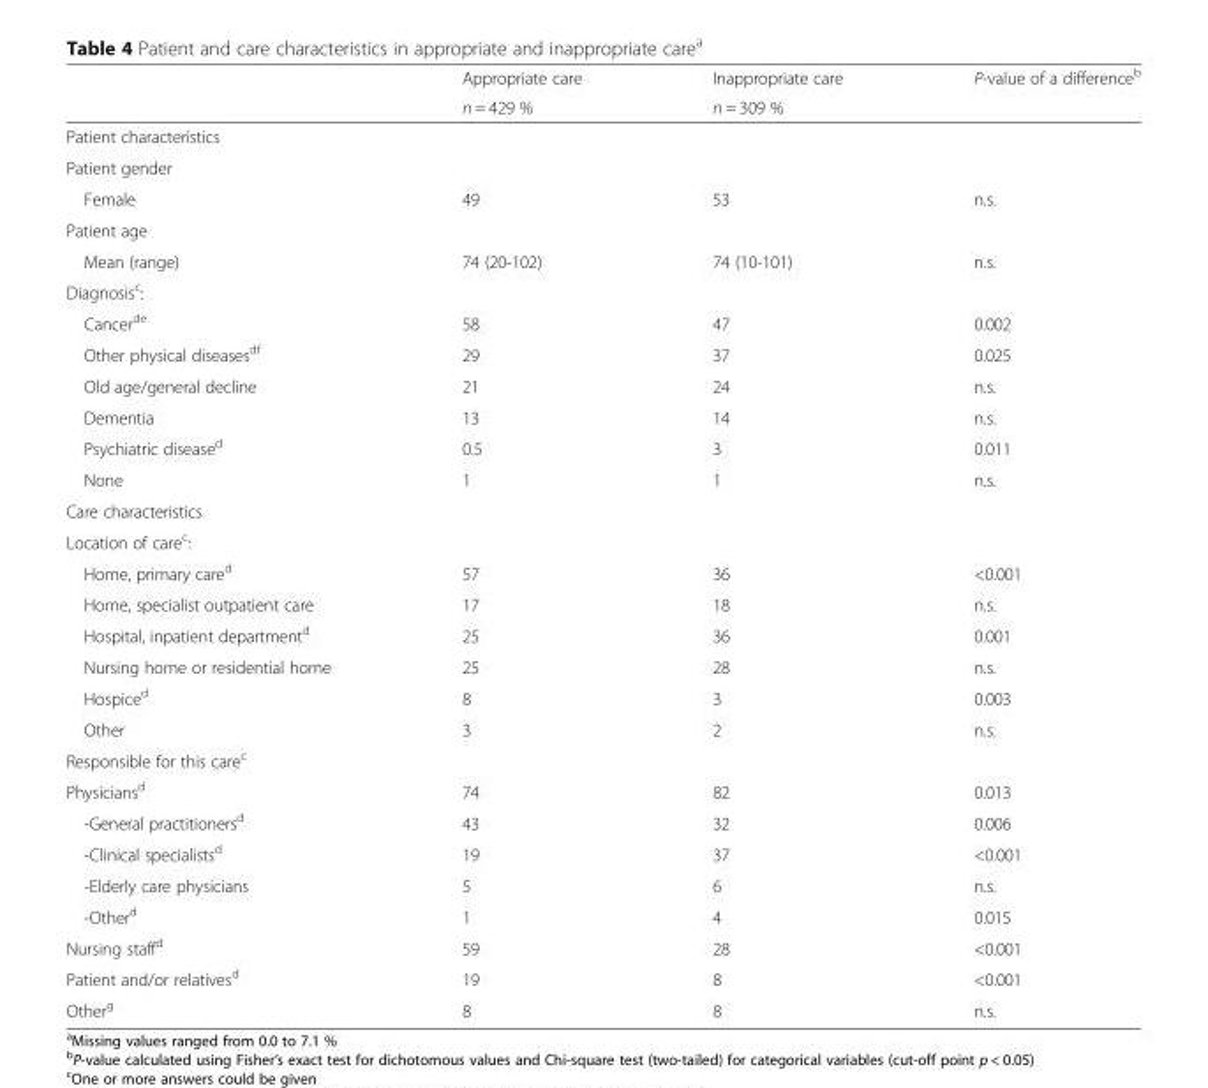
<table><thead><tr><td rowspan="2"></td><td rowspan="2">Appropriate care n = 429 %</td><td rowspan="2">Inappropriate care n = 309 %</td><td rowspan="2">P-value of a difference<sup>b</sup></td></tr><tr></tr></thead><tbody><tr><td colspan="4">Patient characteristics</td></tr><tr><td colspan="4">Patient gender</td></tr><tr><td>Female</td><td>49</td><td>53</td><td>n.s.</td></tr><tr><td colspan="4">Patient age</td></tr><tr><td>Mean (range)</td><td>74 (20-102)</td><td>74 (10-101)</td><td>n.s.</td></tr><tr><td colspan="4">Diagnosis<sup>c</sup>:</td></tr><tr><td>Cancer<sup>de</sup></td><td>58</td><td>47</td><td>0.002</td></tr><tr><td>Other physical diseases<sup>df</sup></td><td>29</td><td>37</td><td>0.025</td></tr><tr><td>Old age/general decline</td><td>21</td><td>24</td><td>n.s.</td></tr><tr><td>Dementia</td><td>13</td><td>14</td><td>n.s.</td></tr><tr><td>Psychiatric disease<sup>d</sup></td><td>0.5</td><td>3</td><td>0.011</td></tr><tr><td>None</td><td>1</td><td>1</td><td>n.s.</td></tr><tr><td colspan="4">Care characteristics</td></tr><tr><td colspan="4">Location of care<sup>c</sup>:</td></tr><tr><td>Home, primary care<sup>d</sup></td><td>57</td><td>36</td><td>&lt;0.001</td></tr><tr><td>Home, specialist outpatient care</td><td>17</td><td>18</td><td>n.s.</td></tr><tr><td>Hospital, inpatient department<sup>d</sup></td><td>25</td><td>36</td><td>0.001</td></tr><tr><td>Nursing home or residential home</td><td>25</td><td>28</td><td>n.s.</td></tr><tr><td>Hospice<sup>d</sup></td><td>8</td><td>3</td><td>0.003</td></tr><tr><td>Other</td><td>3</td><td>2</td><td>n.s.</td></tr><tr><td colspan="4">Responsible for this care<sup>c</sup></td></tr><tr><td>Physicians<sup>d</sup></td><td>74</td><td>82</td><td>0.013</td></tr><tr><td>-General practitioners<sup>d</sup></td><td>43</td><td>32</td><td>0.006</td></tr><tr><td>-Clinical specialists<sup>d</sup></td><td>19</td><td>37</td><td>&lt;0.001</td></tr><tr><td>-Elderly care physicians</td><td>5</td><td>6</td><td>n.s.</td></tr><tr><td>-Other<sup>d</sup></td><td>1</td><td>4</td><td>0.015</td></tr><tr><td>Nursing staff<sup>d</sup></td><td>59</td><td>28</td><td>&lt;0.001</td></tr><tr><td>Patient and/or relatives<sup>d</sup></td><td>19</td><td>8</td><td>&lt;0.001</td></tr><tr><td>Other<sup>g</sup></td><td>8</td><td>8</td><td>n.s.</td></tr></tbody></table>